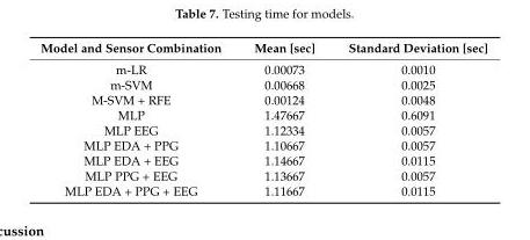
<table><thead><tr><td>Model and Sensor Combination</td><td>Mean [sec]</td><td>Standard Deviation [sec]</td></tr></thead><tbody><tr><td>m-LR</td><td>0.00073</td><td>0.0010</td></tr><tr><td>m-SVM</td><td>0.00668</td><td>0.0025</td></tr><tr><td>M-SVM + RFE</td><td>0.00124</td><td>0.0048</td></tr><tr><td>MLP</td><td>1.47667</td><td>0.6091</td></tr><tr><td>MLP EEG</td><td>1.12334</td><td>0.0057</td></tr><tr><td>MLP EDA + PPG</td><td>1.10667</td><td>0.0057</td></tr><tr><td>MLP EDA + EEG</td><td>1.14667</td><td>0.0115</td></tr><tr><td>MLP PPG + EEG</td><td>1.13667</td><td>0.0057</td></tr><tr><td>MLP EDA + PPG + EEG</td><td>1.11667</td><td>0.0115</td></tr></tbody></table>